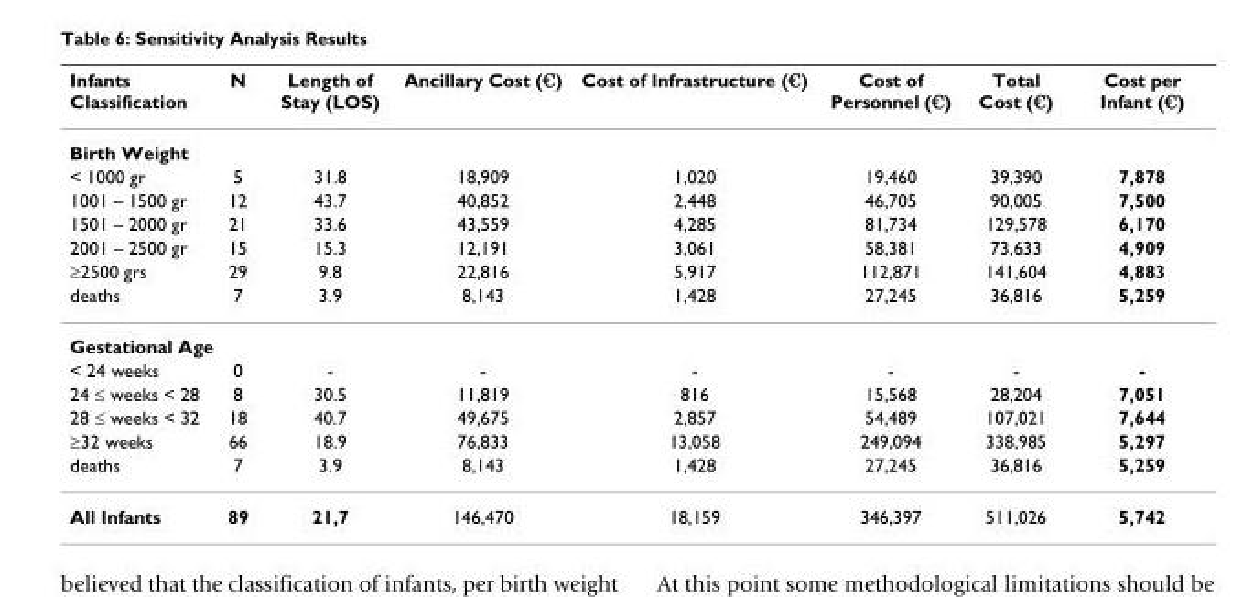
<table><thead><tr><td>Infants Classification</td><td>N</td><td>Length of Stay (LOS)</td><td>Ancillary Cost (€)</td><td>Cost of Infrastructure (€)</td><td>Cost of Personnel (€)</td><td>Total Cost (€)</td><td>Cost per Infant (€)</td></tr></thead><tbody><tr><td colspan="8">Birth Weight</td></tr><tr><td>&lt; 1000 gr</td><td>5</td><td>31.8</td><td>18,909</td><td>1,020</td><td>19,460</td><td>39,390</td><td>7,878</td></tr><tr><td>1001 – 1500 gr</td><td>12</td><td>43.7</td><td>40,852</td><td>2,448</td><td>46,705</td><td>90,005</td><td>7,500</td></tr><tr><td>1501 – 2000 gr</td><td>21</td><td>33.6</td><td>43,559</td><td>4,285</td><td>81,734</td><td>129,578</td><td>6,170</td></tr><tr><td>2001 – 2500 gr</td><td>15</td><td>15.3</td><td>12,191</td><td>3,061</td><td>58,381</td><td>73,633</td><td>4,909</td></tr><tr><td>≥2500 grs</td><td>29</td><td>9.8</td><td>22,816</td><td>5,917</td><td>112,871</td><td>141,604</td><td>4,883</td></tr><tr><td>deaths</td><td>7</td><td>3.9</td><td>8,143</td><td>1,428</td><td>27,245</td><td>36,816</td><td>5,259</td></tr><tr><td colspan="8">Gestational Age</td></tr><tr><td>&lt; 24 weeks</td><td>0</td><td>-</td><td>-</td><td>-</td><td>-</td><td>-</td><td>-</td></tr><tr><td>24 ≤ weeks &lt; 28</td><td>8</td><td>30.5</td><td>11,819</td><td>816</td><td>15,568</td><td>28,204</td><td>7,051</td></tr><tr><td>28 ≤ weeks &lt; 32</td><td>18</td><td>40.7</td><td>49,675</td><td>2,857</td><td>54,489</td><td>107,021</td><td>7,644</td></tr><tr><td>≥32 weeks</td><td>66</td><td>18.9</td><td>76,833</td><td>13,058</td><td>249,094</td><td>338,985</td><td>5,297</td></tr><tr><td>deaths</td><td>7</td><td>3.9</td><td>8,143</td><td>1,428</td><td>27,245</td><td>36,816</td><td>5,259</td></tr><tr><td>All Infants</td><td>89</td><td>21,7</td><td>146,470</td><td>18,159</td><td>346,397</td><td>511,026</td><td>5,742</td></tr></tbody></table>